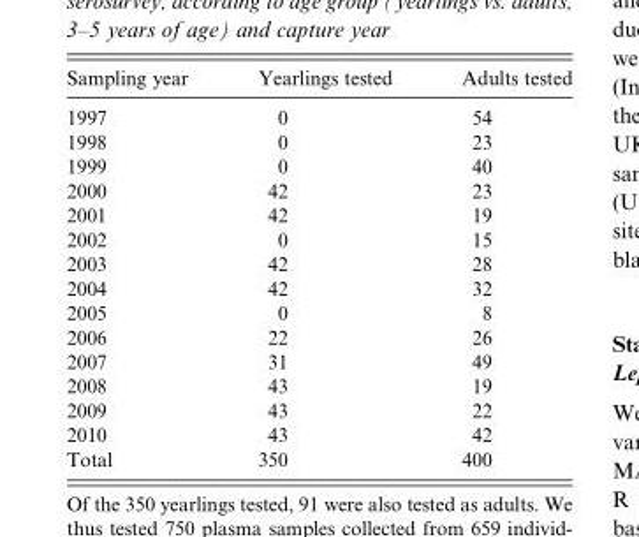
<table><thead><tr><td>Sampling year</td><td>Yearlings tested</td><td>Adults tested</td></tr></thead><tbody><tr><td>1997</td><td>0</td><td>54</td></tr><tr><td>1998</td><td>0</td><td>23</td></tr><tr><td>1999</td><td>0</td><td>40</td></tr><tr><td>2000</td><td>42</td><td>23</td></tr><tr><td>2001</td><td>42</td><td>19</td></tr><tr><td>2002</td><td>0</td><td>15</td></tr><tr><td>2003</td><td>42</td><td>28</td></tr><tr><td>2004</td><td>42</td><td>32</td></tr><tr><td>2005</td><td>0</td><td>8</td></tr><tr><td>2006</td><td>22</td><td>26</td></tr><tr><td>2007</td><td>31</td><td>49</td></tr><tr><td>2008</td><td>43</td><td>19</td></tr><tr><td>2009</td><td>43</td><td>22</td></tr><tr><td>2010</td><td>43</td><td>42</td></tr><tr><td>Total</td><td>350</td><td>400</td></tr></tbody></table>